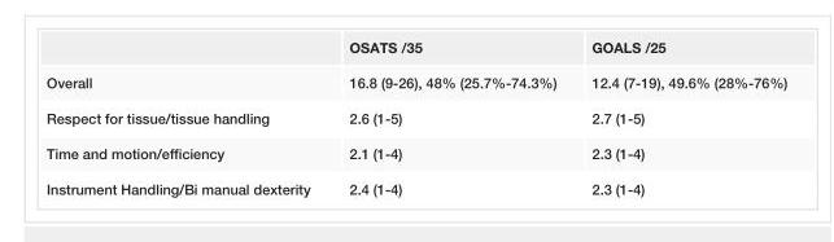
<table><thead><tr><td></td><td>OSATS /35</td><td>GOALS /25</td></tr></thead><tbody><tr><td>Overall</td><td>16.8 (9-26), 48% (25.7%-74.3%)</td><td>12.4 (7-19), 49.6% (28%-76%)</td></tr><tr><td>Respect for tissue/tissue handling</td><td>2.6 (1-5)</td><td>2.7 (1-5)</td></tr><tr><td>Time and motion/efficiency</td><td>2.1 (1-4)</td><td>2.3 (1-4)</td></tr><tr><td>Instrument Handling/Bi manual dexterity</td><td>2.4 (1-4)</td><td>2.3 (1-4)</td></tr></tbody></table>